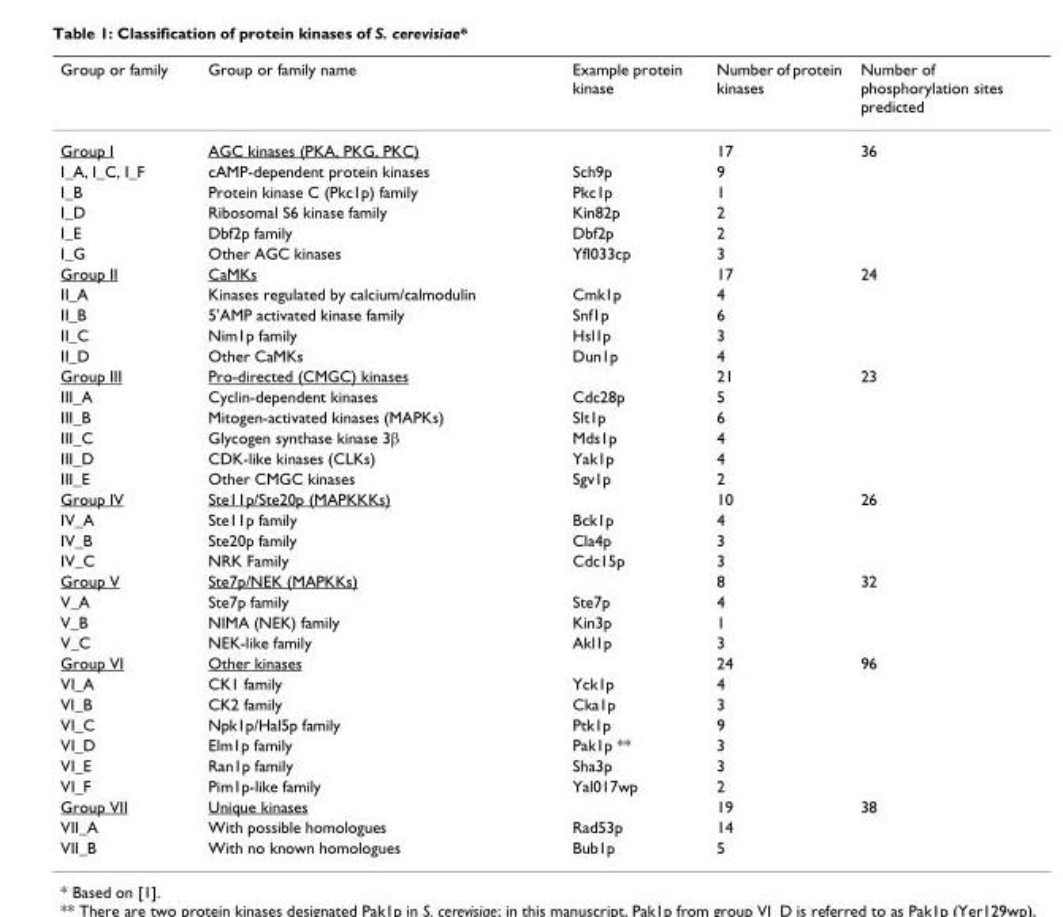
<table><thead><tr><td>Group or family</td><td>Group or family name</td><td>Example protein kinase</td><td>Number of protein kinases</td><td>Number of phosphorylation sites predicted</td></tr></thead><tbody><tr><td>Group I</td><td>AGC kinases (PKA, PKG, PKC)</td><td></td><td>17</td><td>36</td></tr><tr><td>I_A, I_C, I_F</td><td>cAMP-dependent protein kinases</td><td>Sch9p</td><td>9</td><td></td></tr><tr><td>I_B</td><td>Protein kinase C (Pkc1p) family</td><td>Pkc1p</td><td>1</td><td></td></tr><tr><td>I_D</td><td>Ribosomal S6 kinase family</td><td>Kin82p</td><td>2</td><td></td></tr><tr><td>I_E</td><td>Dbf2p family</td><td>Dbf2p</td><td>2</td><td></td></tr><tr><td>I_G</td><td>Other AGC kinases</td><td>Yfl033cp</td><td>3</td><td></td></tr><tr><td>Group II</td><td>CaMKs</td><td></td><td>17</td><td>24</td></tr><tr><td>II_A</td><td>Kinases regulated by calcium/calmodulin</td><td>Cmk1p</td><td>4</td><td></td></tr><tr><td>II_B</td><td>5&#x27;AMP activated kinase family</td><td>Snf1p</td><td>6</td><td></td></tr><tr><td>II_C</td><td>Nim1p family</td><td>Hsl1p</td><td>3</td><td></td></tr><tr><td>II_D</td><td>Other CaMKs</td><td>Dun1p</td><td>4</td><td></td></tr><tr><td>Group III</td><td>Pro-directed (CMGC) kinases</td><td></td><td>21</td><td>23</td></tr><tr><td>III_A</td><td>Cyclin-dependent kinases</td><td>Cdc28p</td><td>5</td><td></td></tr><tr><td>III_B</td><td>Mitogen-activated kinases (MAPKs)</td><td>Slt1p</td><td>6</td><td></td></tr><tr><td>III_C</td><td>Glycogen synthase kinase 3β</td><td>Mds1p</td><td>4</td><td></td></tr><tr><td>III_D</td><td>CDK-like kinases (CLKs)</td><td>Yak1p</td><td>4</td><td></td></tr><tr><td>III_E</td><td>Other CMGC kinases</td><td>Sgv1p</td><td>2</td><td></td></tr><tr><td>Group IV</td><td>Ste11p/Ste20p (MAPKKKs)</td><td></td><td>10</td><td>26</td></tr><tr><td>IV_A</td><td>Ste11p family</td><td>Bck1p</td><td>4</td><td></td></tr><tr><td>IV_B</td><td>Ste20p family</td><td>Cla4p</td><td>3</td><td></td></tr><tr><td>IV_C</td><td>NRK Family</td><td>Cdc15p</td><td>3</td><td></td></tr><tr><td>Group V</td><td>Ste7p/NEK (MAPKKs)</td><td></td><td>8</td><td>32</td></tr><tr><td>V_A</td><td>Ste7p family</td><td>Ste7p</td><td>4</td><td></td></tr><tr><td>V_B</td><td>NIMA (NEK) family</td><td>Kin3p</td><td>1</td><td></td></tr><tr><td>V_C</td><td>NEK-like family</td><td>Akl1p</td><td>3</td><td></td></tr><tr><td>Group VI</td><td>Other kinases</td><td></td><td>24</td><td>96</td></tr><tr><td>VI_A</td><td>CK1 family</td><td>Yck1p</td><td>4</td><td></td></tr><tr><td>VI_B</td><td>CK2 family</td><td>Cka1p</td><td>3</td><td></td></tr><tr><td>VI_C</td><td>Npk1p/Hal5p family</td><td>Ptk1p</td><td>9</td><td></td></tr><tr><td>VI_D</td><td>Elm1p family</td><td>Pak1p **</td><td>3</td><td></td></tr><tr><td>VI_E</td><td>Ran1p family</td><td>Sha3p</td><td>3</td><td></td></tr><tr><td>VI_F</td><td>Pim1p-like family</td><td>Yal017wp</td><td>2</td><td></td></tr><tr><td>Group VII</td><td>Unique kinases</td><td></td><td>19</td><td>38</td></tr><tr><td>VII_A</td><td>With possible homologues</td><td>Rad53p</td><td>14</td><td></td></tr><tr><td>VII_B</td><td>With no known homologues</td><td>Bub1p</td><td>5</td><td></td></tr></tbody></table>